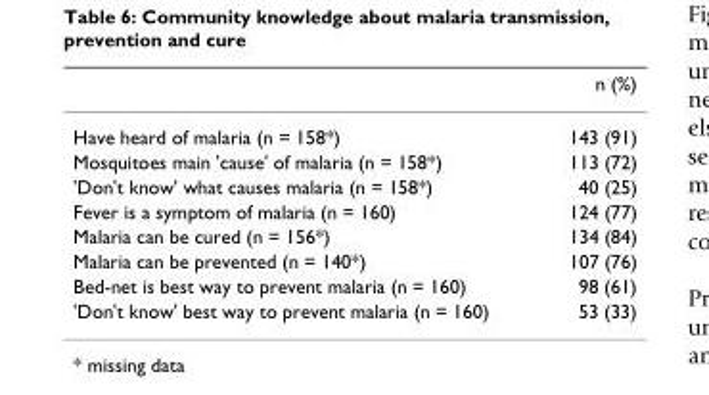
<table><thead><tr><td></td><td>n (%)</td></tr></thead><tbody><tr><td>Have heard of malaria (n = 158*)</td><td>143 (91)</td></tr><tr><td>Mosquitoes main &#x27;cause&#x27; of malaria (n = 158*)</td><td>113 (72)</td></tr><tr><td>&#x27;Don&#x27;t know&#x27; what causes malaria (n = 158*)</td><td>40 (25)</td></tr><tr><td>Fever is a symptom of malaria (n = 160)</td><td>124 (77)</td></tr><tr><td>Malaria can be cured (n = 156*)</td><td>134 (84)</td></tr><tr><td>Malaria can be prevented (n = 140*)</td><td>107 (76)</td></tr><tr><td>Bed-net is best way to prevent malaria (n = 160)</td><td>98 (61)</td></tr><tr><td>&#x27;Don&#x27;t know&#x27; best way to prevent malaria (n = 160)</td><td>53 (33)</td></tr></tbody></table>